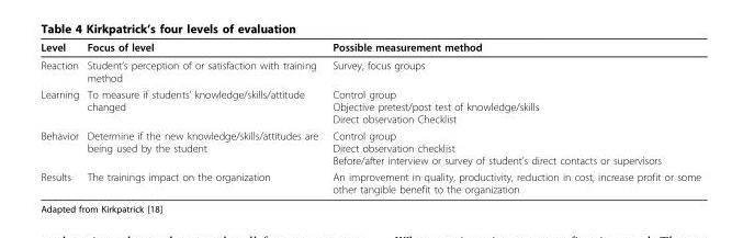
<table><thead><tr><td>Level</td><td>Focus of level</td><td>Possible measurement method</td></tr></thead><tbody><tr><td>Reaction</td><td>Student’s perception of or satisfaction with training method</td><td>Survey, focus groups</td></tr><tr><td>Learning</td><td>To measure if students’ knowledge/skills/attitude changed</td><td>Control group Objective pretest/post test of knowledge/skills Direct observation Checklist</td></tr><tr><td>Behavior</td><td>Determine if the new knowledge/skills/attitudes are being used by the student</td><td>Control group Direct observation checklist Before/after interview or survey of student’s direct contacts or supervisors</td></tr><tr><td>Results</td><td>The trainings impact on the organization</td><td>An improvement in quality, productivity, reduction in cost, increase profit or some other tangible benefit to the organization</td></tr></tbody></table>